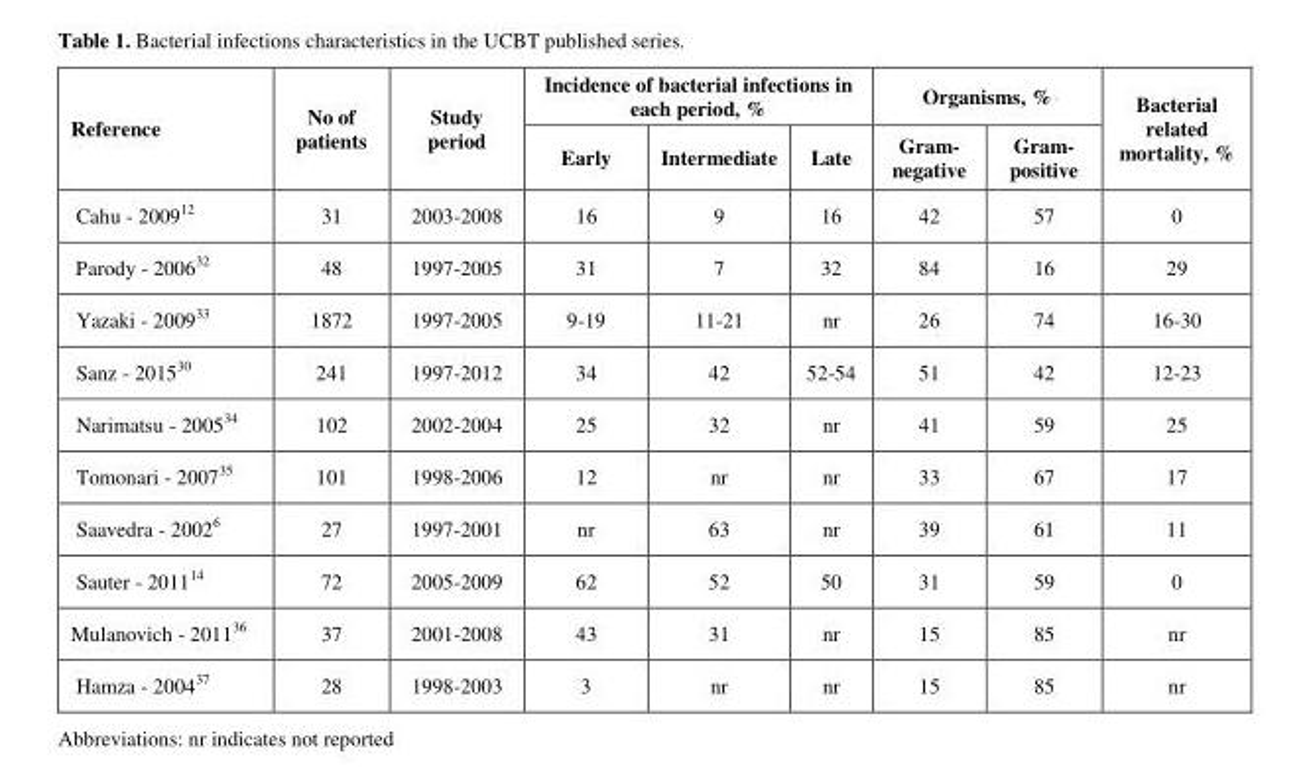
<table><thead><tr><td rowspan="2">Reference</td><td rowspan="2">No of patients</td><td rowspan="2">Study period</td><td colspan="3">Incidence of bacterial infections in each period, %</td><td colspan="2">Organisms, %</td><td rowspan="2">Bacterial related mortality, %</td></tr><tr><td>Early</td><td>Intermediate</td><td>Late</td><td>Gram- negative</td><td>Gram- positive</td></tr></thead><tbody><tr><td>Cahu - 2009<sup>12</sup></td><td>31</td><td>2003-2008</td><td>16</td><td>9</td><td>16</td><td>42</td><td>57</td><td>0</td></tr><tr><td>Parody - 2006<sup>32</sup></td><td>48</td><td>1997-2005</td><td>31</td><td>7</td><td>32</td><td>84</td><td>16</td><td>29</td></tr><tr><td>Yazaki - 2009<sup>33</sup></td><td>1872</td><td>1997-2005</td><td>9-19</td><td>11-21</td><td>nr</td><td>26</td><td>74</td><td>16-30</td></tr><tr><td>Sanz - 2015<sup>30</sup></td><td>241</td><td>1997-2012</td><td>34</td><td>42</td><td>52-54</td><td>51</td><td>42</td><td>12-23</td></tr><tr><td>Narimatsu - 2005<sup>34</sup></td><td>102</td><td>2002-2004</td><td>25</td><td>32</td><td>nr</td><td>41</td><td>59</td><td>25</td></tr><tr><td>Tomonari - 2007<sup>35</sup></td><td>101</td><td>1998-2006</td><td>12</td><td>nr</td><td>nr</td><td>33</td><td>67</td><td>17</td></tr><tr><td>Saavedra - 2002<sup>6</sup></td><td>27</td><td>1997-2001</td><td>nr</td><td>63</td><td>nr</td><td>39</td><td>61</td><td>11</td></tr><tr><td>Sauter - 2011<sup>14</sup></td><td>72</td><td>2005-2009</td><td>62</td><td>52</td><td>50</td><td>31</td><td>59</td><td>0</td></tr><tr><td>Mulanovich - 2011<sup>36</sup></td><td>37</td><td>2001-2008</td><td>43</td><td>31</td><td>nr</td><td>15</td><td>85</td><td>nr</td></tr><tr><td>Hamza - 2004<sup>37</sup></td><td>28</td><td>1998-2003</td><td>3</td><td>nr</td><td>nr</td><td>15</td><td>85</td><td>nr</td></tr></tbody></table>